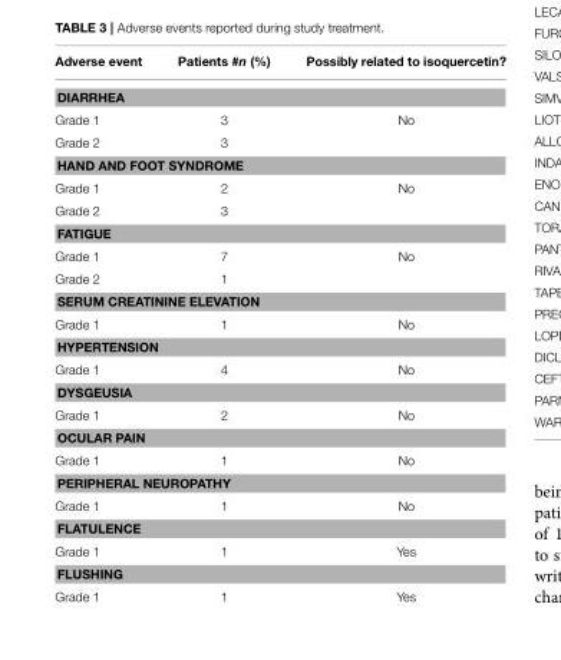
<table><thead><tr><td>Adverse event</td><td>Patients #n (%)</td><td>Possibly related to isoquercetin?</td></tr></thead><tbody><tr><td colspan="3">DIARRHEA</td></tr><tr><td>Grade 1</td><td>3</td><td>No</td></tr><tr><td>Grade 2</td><td>3</td><td></td></tr><tr><td colspan="3">HAND AND FOOT SYNDROME</td></tr><tr><td>Grade 1</td><td>2</td><td>No</td></tr><tr><td>Grade 2</td><td>3</td><td></td></tr><tr><td colspan="3">FATIGUE</td></tr><tr><td>Grade 1</td><td>7</td><td>No</td></tr><tr><td>Grade 2</td><td>1</td><td></td></tr><tr><td colspan="3">SERUM CREATININE ELEVATION</td></tr><tr><td>Grade 1</td><td>1</td><td>No</td></tr><tr><td colspan="3">HYPERTENSION</td></tr><tr><td>Grade 1</td><td>4</td><td>No</td></tr><tr><td colspan="3">DYSGEUSIA</td></tr><tr><td>Grade 1</td><td>2</td><td>No</td></tr><tr><td colspan="3">OCULAR PAIN</td></tr><tr><td>Grade 1</td><td>1</td><td>No</td></tr><tr><td colspan="3">PERIPHERAL NEUROPATHY</td></tr><tr><td>Grade 1</td><td>1</td><td>No</td></tr><tr><td colspan="3">FLATULENCE</td></tr><tr><td>Grade 1</td><td>1</td><td>Yes</td></tr><tr><td colspan="3">FLUSHING</td></tr><tr><td>Grade 1</td><td>1</td><td>Yes</td></tr></tbody></table>